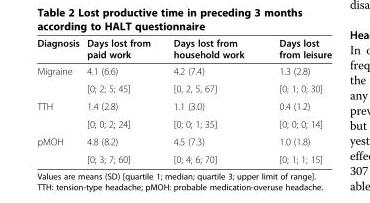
<table><thead><tr><td>Diagnosis</td><td>Days lost from paid work</td><td>Days lost from household work</td><td>Days lost from leisure</td></tr></thead><tbody><tr><td rowspan="2">Migraine</td><td>4.1 (6.6)</td><td>4.2 (7.4)</td><td>1.3 (2.8)</td></tr><tr><td>[0; 2; 5; 45]</td><td>[0, 2, 5, 67]</td><td>[0; 1; 0; 30]</td></tr><tr><td rowspan="2">TTH</td><td>1.4 (2.8)</td><td>1.1 (3.0)</td><td>0.4 (1.2)</td></tr><tr><td>[0; 0; 2; 24]</td><td>[0; 0; 1; 35]</td><td>[0; 0; 0; 14]</td></tr><tr><td rowspan="2">pMOH</td><td>4.8 (8.2)</td><td>4.5 (7.3)</td><td>1.0 (1.8)</td></tr><tr><td>[0; 3; 7; 60]</td><td>[0; 4; 6; 70]</td><td>[0; 1; 1; 15]</td></tr></tbody></table>